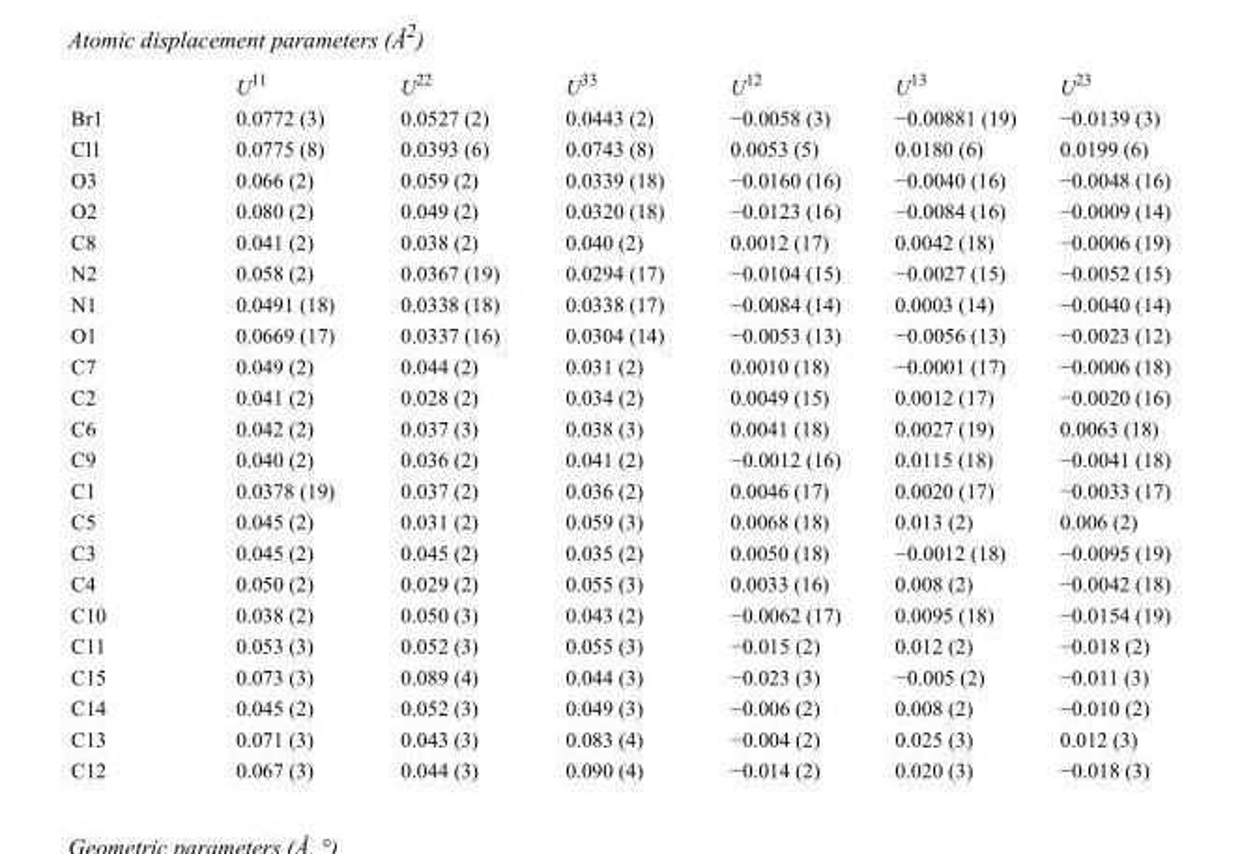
<table><thead><tr><td></td><td>U<sup>11</sup></td><td>U<sup>22</sup></td><td>U<sup>33</sup></td><td>U<sup>12</sup></td><td>U<sup>13</sup></td><td>U<sup>23</sup></td></tr></thead><tbody><tr><td>Br1</td><td>0.0772 (3)</td><td>0.0527 (2)</td><td>0.0443 (2)</td><td>−0.0058 (3)</td><td>−0.00881 (19)</td><td>−0.0139 (3)</td></tr><tr><td>Cl1</td><td>0.0775 (8)</td><td>0.0393 (6)</td><td>0.0743 (8)</td><td>0.0053 (5)</td><td>0.0180 (6)</td><td>0.0199 (6)</td></tr><tr><td>O3</td><td>0.066 (2)</td><td>0.059 (2)</td><td>0.0339 (18)</td><td>−0.0160 (16)</td><td>−0.0040 (16)</td><td>−0.0048 (16)</td></tr><tr><td>O2</td><td>0.080 (2)</td><td>0.049 (2)</td><td>0.0320 (18)</td><td>−0.0123 (16)</td><td>−0.0084 (16)</td><td>−0.0009 (14)</td></tr><tr><td>C8</td><td>0.041 (2)</td><td>0.038 (2)</td><td>0.040 (2)</td><td>0.0012 (17)</td><td>0.0042 (18)</td><td>−0.0006 (19)</td></tr><tr><td>N2</td><td>0.058 (2)</td><td>0.0367 (19)</td><td>0.0294 (17)</td><td>−0.0104 (15)</td><td>−0.0027 (15)</td><td>−0.0052 (15)</td></tr><tr><td>N1</td><td>0.0491 (18)</td><td>0.0338 (18)</td><td>0.0338 (17)</td><td>−0.0084 (14)</td><td>0.0003 (14)</td><td>−0.0040 (14)</td></tr><tr><td>O1</td><td>0.0669 (17)</td><td>0.0337 (16)</td><td>0.0304 (14)</td><td>−0.0053 (13)</td><td>−0.0056 (13)</td><td>−0.0023 (12)</td></tr><tr><td>C7</td><td>0.049 (2)</td><td>0.044 (2)</td><td>0.031 (2)</td><td>0.0010 (18)</td><td>−0.0001 (17)</td><td>−0.0006 (18)</td></tr><tr><td>C2</td><td>0.041 (2)</td><td>0.028 (2)</td><td>0.034 (2)</td><td>0.0049 (15)</td><td>0.0012 (17)</td><td>−0.0020 (16)</td></tr><tr><td>C6</td><td>0.042 (2)</td><td>0.037 (3)</td><td>0.038 (3)</td><td>0.0041 (18)</td><td>0.0027 (19)</td><td>0.0063 (18)</td></tr><tr><td>C9</td><td>0.040 (2)</td><td>0.036 (2)</td><td>0.041 (2)</td><td>−0.0012 (16)</td><td>0.0115 (18)</td><td>−0.0041 (18)</td></tr><tr><td>C1</td><td>0.0378 (19)</td><td>0.037 (2)</td><td>0.036 (2)</td><td>0.0046 (17)</td><td>0.0020 (17)</td><td>−0.0033 (17)</td></tr><tr><td>C5</td><td>0.045 (2)</td><td>0.031 (2)</td><td>0.059 (3)</td><td>0.0068 (18)</td><td>0.013 (2)</td><td>0.006 (2)</td></tr><tr><td>C3</td><td>0.045 (2)</td><td>0.045 (2)</td><td>0.035 (2)</td><td>0.0050 (18)</td><td>−0.0012 (18)</td><td>−0.0095 (19)</td></tr><tr><td>C4</td><td>0.050 (2)</td><td>0.029 (2)</td><td>0.055 (3)</td><td>0.0033 (16)</td><td>0.008 (2)</td><td>−0.0042 (18)</td></tr><tr><td>C10</td><td>0.038 (2)</td><td>0.050 (3)</td><td>0.043 (2)</td><td>−0.0062 (17)</td><td>0.0095 (18)</td><td>−0.0154 (19)</td></tr><tr><td>C11</td><td>0.053 (3)</td><td>0.052 (3)</td><td>0.055 (3)</td><td>−0.015 (2)</td><td>0.012 (2)</td><td>−0.018 (2)</td></tr><tr><td>C15</td><td>0.073 (3)</td><td>0.089 (4)</td><td>0.044 (3)</td><td>−0.023 (3)</td><td>−0.005 (2)</td><td>−0.011 (3)</td></tr><tr><td>C14</td><td>0.045 (2)</td><td>0.052 (3)</td><td>0.049 (3)</td><td>−0.006 (2)</td><td>0.008 (2)</td><td>−0.010 (2)</td></tr><tr><td>C13</td><td>0.071 (3)</td><td>0.043 (3)</td><td>0.083 (4)</td><td>−0.004 (2)</td><td>0.025 (3)</td><td>0.012 (3)</td></tr><tr><td>C12</td><td>0.067 (3)</td><td>0.044 (3)</td><td>0.090 (4)</td><td>−0.014 (2)</td><td>0.020 (3)</td><td>−0.018 (3)</td></tr></tbody></table>